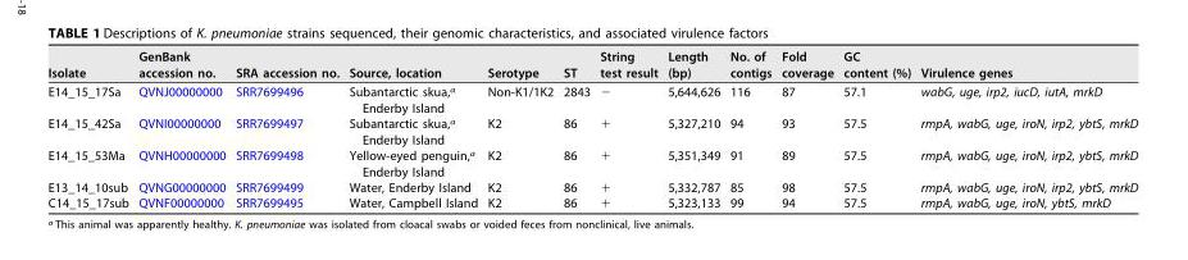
<table><thead><tr><td>Isolate</td><td>GenBank accession no.</td><td>SRA accession no.</td><td>Source, location</td><td>Serotype</td><td>ST</td><td>String test result</td><td>Length (bp)</td><td>No. of contigs</td><td>Fold coverage</td><td>GC content (%)</td><td>Virulence genes</td></tr></thead><tbody><tr><td>E14_15_17Sa</td><td>QVNJ00000000</td><td>SRR7699496</td><td>Subantarctic skua,<sup>a</sup> Enderby Island</td><td>Non-K1/1K2</td><td>2843</td><td>−</td><td>5,644,626</td><td>116</td><td>87</td><td>57.1</td><td>wabG, uge, irp2, iucD, iutA, mrkD</td></tr><tr><td>E14_15_42Sa</td><td>QVNI00000000</td><td>SRR7699497</td><td>Subantarctic skua,<sup>a</sup> Enderby Island</td><td>K2</td><td>86</td><td>+</td><td>5,327,210</td><td>94</td><td>93</td><td>57.5</td><td>rmpA, wabG, uge, iroN, irp2, ybtS, mrkD</td></tr><tr><td>E14_15_53Ma</td><td>QVNH00000000</td><td>SRR7699498</td><td>Yellow-eyed penguin,<sup>a</sup> Enderby Island</td><td>K2</td><td>86</td><td>+</td><td>5,351,349</td><td>91</td><td>89</td><td>57.5</td><td>rmpA, wabG, uge, iroN, irp2, ybtS, mrkD</td></tr><tr><td>E13_14_10sub</td><td>QVNG00000000</td><td>SRR7699499</td><td>Water, Enderby Island</td><td>K2</td><td>86</td><td>+</td><td>5,332,787</td><td>85</td><td>98</td><td>57.5</td><td>rmpA, wabG, uge, iroN, irp2, ybtS, mrkD</td></tr><tr><td>C14_15_17sub</td><td>QVNF00000000</td><td>SRR7699495</td><td>Water, Campbell Island</td><td>K2</td><td>86</td><td>+</td><td>5,323,133</td><td>99</td><td>94</td><td>57.5</td><td>rmpA, wabG, uge, iroN, ybtS, mrkD</td></tr></tbody></table>